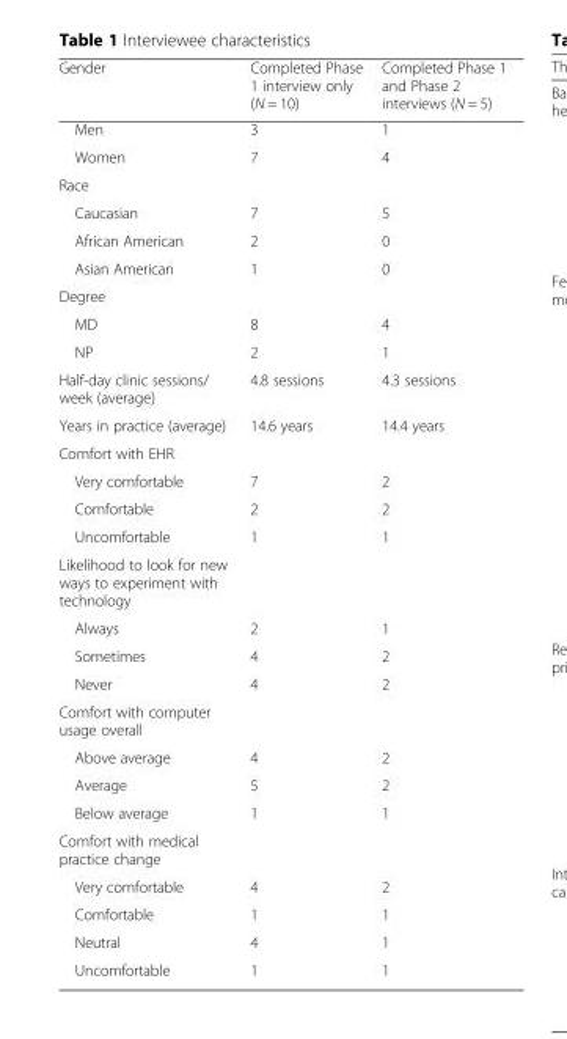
<table><thead><tr><td>Gender</td><td>Completed Phase 1 interview only (N = 10)</td><td>Completed Phase 1 and Phase 2 interviews (N = 5)</td></tr></thead><tbody><tr><td>Men</td><td>3</td><td>1</td></tr><tr><td>Women</td><td>7</td><td>4</td></tr><tr><td colspan="3">Race</td></tr><tr><td>Caucasian</td><td>7</td><td>5</td></tr><tr><td>African American</td><td>2</td><td>0</td></tr><tr><td>Asian American</td><td>1</td><td>0</td></tr><tr><td colspan="3">Degree</td></tr><tr><td>MD</td><td>8</td><td>4</td></tr><tr><td>NP</td><td>2</td><td>1</td></tr><tr><td>Half-day clinic sessions/ week (average)</td><td>4.8 sessions</td><td>4.3 sessions</td></tr><tr><td>Years in practice (average)</td><td>14.6 years</td><td>14.4 years</td></tr><tr><td colspan="3">Comfort with EHR</td></tr><tr><td>Very comfortable</td><td>7</td><td>2</td></tr><tr><td>Comfortable</td><td>2</td><td>2</td></tr><tr><td>Uncomfortable</td><td>1</td><td>1</td></tr><tr><td colspan="3">Likelihood to look for new ways to experiment with technology</td></tr><tr><td>Always</td><td>2</td><td>1</td></tr><tr><td>Sometimes</td><td>4</td><td>2</td></tr><tr><td>Never</td><td>4</td><td>2</td></tr><tr><td colspan="3">Comfort with computer usage overall</td></tr><tr><td>Above average</td><td>4</td><td>2</td></tr><tr><td>Average</td><td>5</td><td>2</td></tr><tr><td>Below average</td><td>1</td><td>1</td></tr><tr><td colspan="3">Comfort with medical practice change</td></tr><tr><td>Very comfortable</td><td>4</td><td>2</td></tr><tr><td>Comfortable</td><td>1</td><td>1</td></tr><tr><td>Neutral</td><td>4</td><td>1</td></tr><tr><td>Uncomfortable</td><td>1</td><td>1</td></tr></tbody></table>